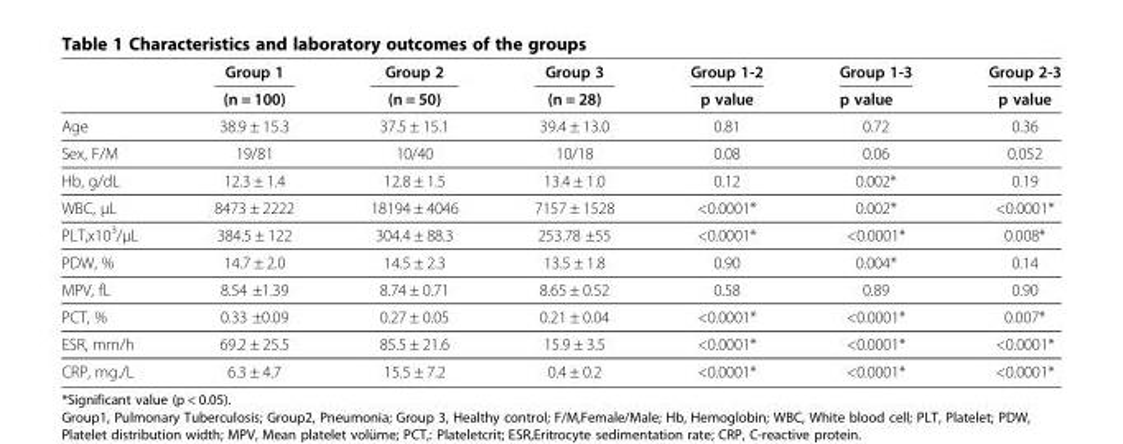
<table><thead><tr><td rowspan="2"></td><td rowspan="2">Group 1 (n = 100)</td><td rowspan="2">Group 2 (n = 50)</td><td rowspan="2">Group 3 (n = 28)</td><td rowspan="2">Group 1-2 p value</td><td rowspan="2">Group 1-3 p value</td><td rowspan="2">Group 2-3 p value</td></tr><tr></tr></thead><tbody><tr><td>Age</td><td>38.9 ± 15.3</td><td>37.5 ± 15.1</td><td>39.4 ± 13.0</td><td>0.81</td><td>0.72</td><td>0.36</td></tr><tr><td>Sex, F/M</td><td>19/81</td><td>10/40</td><td>10/18</td><td>0.08</td><td>0.06</td><td>0.052</td></tr><tr><td>Hb, g/dL</td><td>12.3 ± 1.4</td><td>12.8 ± 1.5</td><td>13.4 ± 1.0</td><td>0.12</td><td>0.002*</td><td>0.19</td></tr><tr><td>WBC, μL</td><td>8473 ± 2222</td><td>18194 ± 4046</td><td>7157 ± 1528</td><td>&lt;0.0001*</td><td>0.002*</td><td>&lt;0.0001*</td></tr><tr><td>PLT,x10<sup>3</sup>/μL</td><td>384.5 ± 122</td><td>304.4 ± 88.3</td><td>253.78 ±55</td><td>&lt;0.0001*</td><td>&lt;0.0001*</td><td>0.008*</td></tr><tr><td>PDW, %</td><td>14.7 ± 2.0</td><td>14.5 ± 2.3</td><td>13.5 ± 1.8</td><td>0.90</td><td>0.004*</td><td>0.14</td></tr><tr><td>MPV, fL</td><td>8.54 ±1.39</td><td>8.74 ± 0.71</td><td>8.65 ± 0.52</td><td>0.58</td><td>0.89</td><td>0.90</td></tr><tr><td>PCT, %</td><td>0.33 ±0.09</td><td>0.27 ± 0.05</td><td>0.21 ± 0.04</td><td>&lt;0.0001*</td><td>&lt;0.0001*</td><td>0.007*</td></tr><tr><td>ESR, mm/h</td><td>69.2 ± 25.5</td><td>85.5 ± 21.6</td><td>15.9 ± 3.5</td><td>&lt;0.0001*</td><td>&lt;0.0001*</td><td>&lt;0.0001*</td></tr><tr><td>CRP, mg./L</td><td>6.3 ± 4.7</td><td>15.5 ± 7.2</td><td>0.4 ± 0.2</td><td>&lt;0.0001*</td><td>&lt;0.0001*</td><td>&lt;0.0001*</td></tr></tbody></table>